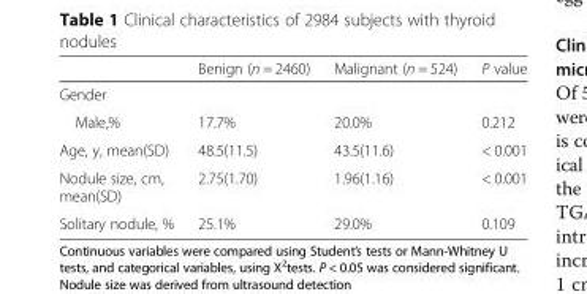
<table><thead><tr><td></td><td>Benign (n = 2460)</td><td>Malignant (n = 524)</td><td>P value</td></tr></thead><tbody><tr><td colspan="4">Gender</td></tr><tr><td>Male,%</td><td>17.7%</td><td>20.0%</td><td>0.212</td></tr><tr><td>Age, y, mean(SD)</td><td>48.5(11.5)</td><td>43.5(11.6)</td><td>&lt; 0.001</td></tr><tr><td>Nodule size, cm, mean(SD)</td><td>2.75(1.70)</td><td>1.96(1.16)</td><td>&lt; 0.001</td></tr><tr><td>Solitary nodule, %</td><td>25.1%</td><td>29.0%</td><td>0.109</td></tr></tbody></table>